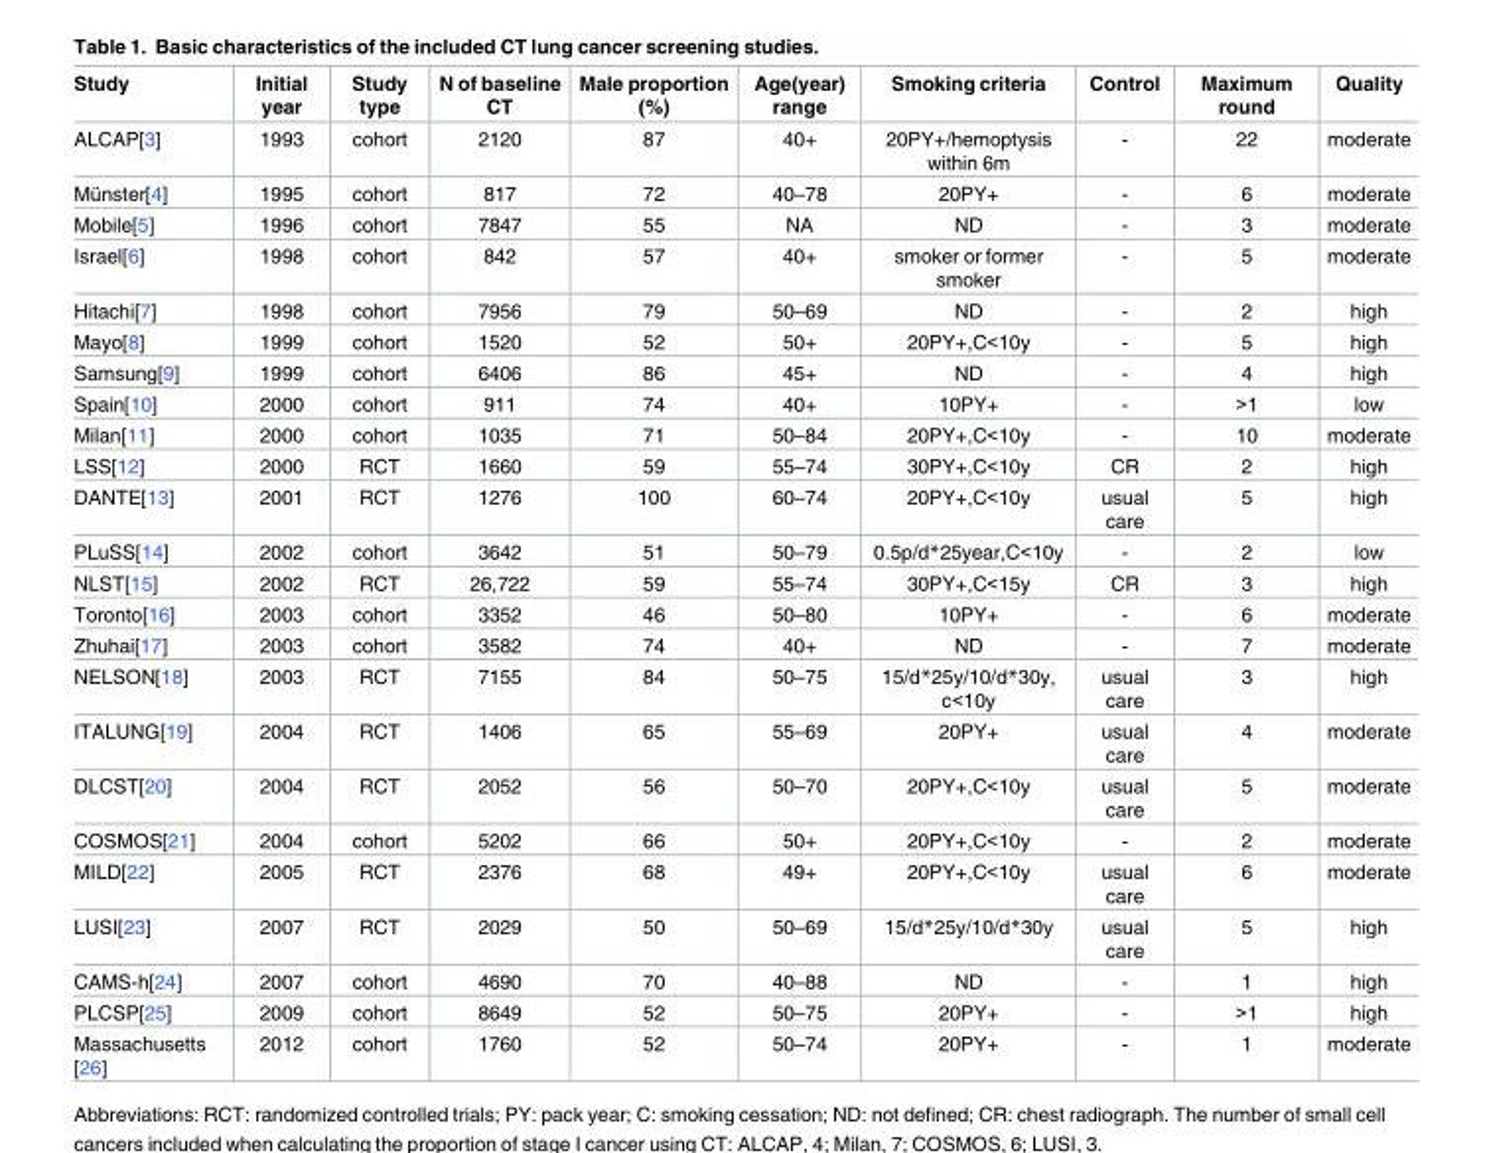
<table><thead><tr><td>Study</td><td>Initial year</td><td>Study type</td><td>N of baseline CT</td><td>Male proportion (%)</td><td>Age(year) range</td><td>Smoking criteria</td><td>Control</td><td>Maximum round</td><td>Quality</td></tr></thead><tbody><tr><td>ALCAP[3]</td><td>1993</td><td>cohort</td><td>2120</td><td>87</td><td>40+</td><td>20PY+/hemoptysis within 6m</td><td>-</td><td>22</td><td>moderate</td></tr><tr><td>Mu¨nster[4]</td><td>1995</td><td>cohort</td><td>817</td><td>72</td><td>40–78</td><td>20PY+</td><td>-</td><td>6</td><td>moderate</td></tr><tr><td>Mobile[5]</td><td>1996</td><td>cohort</td><td>7847</td><td>55</td><td>NA</td><td>ND</td><td>-</td><td>3</td><td>moderate</td></tr><tr><td>Israel[6]</td><td>1998</td><td>cohort</td><td>842</td><td>57</td><td>40+</td><td>smoker or former smoker</td><td>-</td><td>5</td><td>moderate</td></tr><tr><td>Hitachi[7]</td><td>1998</td><td>cohort</td><td>7956</td><td>79</td><td>50–69</td><td>ND</td><td>-</td><td>2</td><td>high</td></tr><tr><td>Mayo[8]</td><td>1999</td><td>cohort</td><td>1520</td><td>52</td><td>50+</td><td>20PY+,C&lt;10y</td><td>-</td><td>5</td><td>high</td></tr><tr><td>Samsung[9]</td><td>1999</td><td>cohort</td><td>6406</td><td>86</td><td>45+</td><td>ND</td><td>-</td><td>4</td><td>high</td></tr><tr><td>Spain[10]</td><td>2000</td><td>cohort</td><td>911</td><td>74</td><td>40+</td><td>10PY+</td><td>-</td><td>&gt;1</td><td>low</td></tr><tr><td>Milan[11]</td><td>2000</td><td>cohort</td><td>1035</td><td>71</td><td>50–84</td><td>20PY+,C&lt;10y</td><td>-</td><td>10</td><td>moderate</td></tr><tr><td>LSS[12]</td><td>2000</td><td>RCT</td><td>1660</td><td>59</td><td>55–74</td><td>30PY+,C&lt;10y</td><td>CR</td><td>2</td><td>high</td></tr><tr><td>DANTE[13]</td><td>2001</td><td>RCT</td><td>1276</td><td>100</td><td>60–74</td><td>20PY+,C&lt;10y</td><td>usual care</td><td>5</td><td>high</td></tr><tr><td>PLuSS[14]</td><td>2002</td><td>cohort</td><td>3642</td><td>51</td><td>50–79</td><td>0.5p/d*25year,C&lt;10y</td><td>-</td><td>2</td><td>low</td></tr><tr><td>NLST[15]</td><td>2002</td><td>RCT</td><td>26,722</td><td>59</td><td>55–74</td><td>30PY+,C&lt;15y</td><td>CR</td><td>3</td><td>high</td></tr><tr><td>Toronto[16]</td><td>2003</td><td>cohort</td><td>3352</td><td>46</td><td>50–80</td><td>10PY+</td><td>-</td><td>6</td><td>moderate</td></tr><tr><td>Zhuhai[17]</td><td>2003</td><td>cohort</td><td>3582</td><td>74</td><td>40+</td><td>ND</td><td>-</td><td>7</td><td>moderate</td></tr><tr><td>NELSON[18]</td><td>2003</td><td>RCT</td><td>7155</td><td>84</td><td>50–75</td><td>15/d*25y/10/d*30y, c&lt;10y</td><td>usual care</td><td>3</td><td>high</td></tr><tr><td>ITALUNG[19]</td><td>2004</td><td>RCT</td><td>1406</td><td>65</td><td>55–69</td><td>20PY+</td><td>usual care</td><td>4</td><td>moderate</td></tr><tr><td>DLCST[20]</td><td>2004</td><td>RCT</td><td>2052</td><td>56</td><td>50–70</td><td>20PY+,C&lt;10y</td><td>usual care</td><td>5</td><td>moderate</td></tr><tr><td>COSMOS[21]</td><td>2004</td><td>cohort</td><td>5202</td><td>66</td><td>50+</td><td>20PY+,C&lt;10y</td><td>-</td><td>2</td><td>moderate</td></tr><tr><td>MILD[22]</td><td>2005</td><td>RCT</td><td>2376</td><td>68</td><td>49+</td><td>20PY+,C&lt;10y</td><td>usual care</td><td>6</td><td>moderate</td></tr><tr><td>LUSI[23]</td><td>2007</td><td>RCT</td><td>2029</td><td>50</td><td>50–69</td><td>15/d*25y/10/d*30y</td><td>usual care</td><td>5</td><td>high</td></tr><tr><td>CAMS-h[24]</td><td>2007</td><td>cohort</td><td>4690</td><td>70</td><td>40–88</td><td>ND</td><td>-</td><td>1</td><td>high</td></tr><tr><td>PLCSP[25]</td><td>2009</td><td>cohort</td><td>8649</td><td>52</td><td>50–75</td><td>20PY+</td><td>-</td><td>&gt;1</td><td>high</td></tr><tr><td>Massachusetts [26]</td><td>2012</td><td>cohort</td><td>1760</td><td>52</td><td>50–74</td><td>20PY+</td><td>-</td><td>1</td><td>moderate</td></tr></tbody></table>